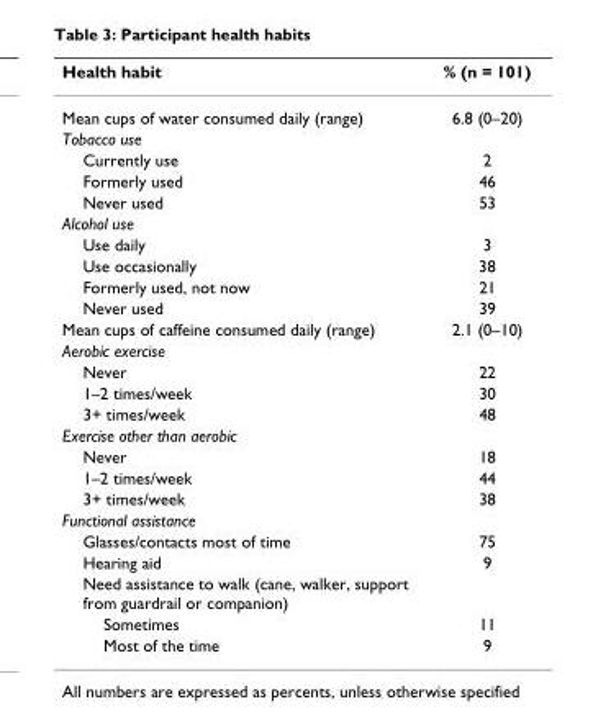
<table><thead><tr><td>Health habit</td><td>% (n = 101)</td></tr></thead><tbody><tr><td>Mean cups of water consumed daily (range)</td><td>6.8 (0–20)</td></tr><tr><td colspan="2">Tobacco use</td></tr><tr><td>Currently use</td><td>2</td></tr><tr><td>Formerly used</td><td>46</td></tr><tr><td>Never used</td><td>53</td></tr><tr><td colspan="2">Alcohol use</td></tr><tr><td>Use daily</td><td>3</td></tr><tr><td>Use occasionally</td><td>38</td></tr><tr><td>Formerly used, not now</td><td>21</td></tr><tr><td>Never used</td><td>39</td></tr><tr><td>Mean cups of caffeine consumed daily (range)</td><td>2.1 (0–10)</td></tr><tr><td colspan="2">Aerobic exercise</td></tr><tr><td>Never</td><td>22</td></tr><tr><td>1–2 times/week</td><td>30</td></tr><tr><td>3+ times/week</td><td>48</td></tr><tr><td colspan="2">Exercise other than aerobic</td></tr><tr><td>Never</td><td>18</td></tr><tr><td>1–2 times/week</td><td>44</td></tr><tr><td>3+ times/week</td><td>38</td></tr><tr><td colspan="2">Functional assistance</td></tr><tr><td>Glasses/contacts most of time</td><td>75</td></tr><tr><td>Hearing aid</td><td>9</td></tr><tr><td colspan="2">Need assistance to walk (cane, walker, support from guardrail or companion)</td></tr><tr><td>Sometimes</td><td>11</td></tr><tr><td>Most of the time</td><td>9</td></tr></tbody></table>